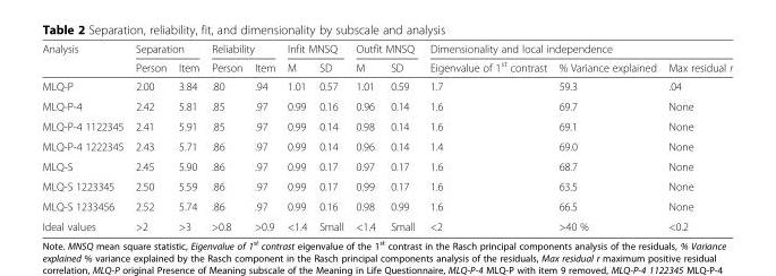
<table><thead><tr><td rowspan="2">Analysis</td><td colspan="2">Separation</td><td colspan="2">Reliability</td><td colspan="2">Infit MNSQ</td><td colspan="2">Outfit MNSQ</td><td colspan="3">Dimensionality and local independence</td></tr><tr><td>Person</td><td>Item</td><td>Person</td><td>Item</td><td>M</td><td>SD</td><td>M</td><td>SD</td><td>Eigenvalue of 1<sup>st</sup> contrast</td><td>% Variance explained</td><td>Max residual r</td></tr></thead><tbody><tr><td>MLQ-P</td><td>2.00</td><td>3.84</td><td>.80</td><td>.94</td><td>1.01</td><td>0.57</td><td>1.01</td><td>0.59</td><td>1.7</td><td>59.3</td><td>.04</td></tr><tr><td>MLQ-P-4</td><td>2.42</td><td>5.81</td><td>.85</td><td>.97</td><td>0.99</td><td>0.16</td><td>0.96</td><td>0.14</td><td>1.6</td><td>69.7</td><td>None</td></tr><tr><td>MLQ-P-4 1122345</td><td>2.41</td><td>5.91</td><td>.85</td><td>.97</td><td>0.99</td><td>0.14</td><td>0.98</td><td>0.14</td><td>1.6</td><td>69.1</td><td>None</td></tr><tr><td>MLQ-P-4 1222345</td><td>2.43</td><td>5.71</td><td>.86</td><td>.97</td><td>0.99</td><td>0.14</td><td>0.96</td><td>0.14</td><td>1.4</td><td>69.0</td><td>None</td></tr><tr><td>MLQ-S</td><td>2.45</td><td>5.90</td><td>.86</td><td>.97</td><td>0.99</td><td>0.17</td><td>0.97</td><td>0.17</td><td>1.6</td><td>68.7</td><td>None</td></tr><tr><td>MLQ-S 1223345</td><td>2.50</td><td>5.59</td><td>.86</td><td>.97</td><td>0.99</td><td>0.17</td><td>0.99</td><td>0.17</td><td>1.6</td><td>63.5</td><td>None</td></tr><tr><td>MLQ-S 1233456</td><td>2.52</td><td>5.74</td><td>.86</td><td>.97</td><td>0.99</td><td>0.16</td><td>0.98</td><td>0.99</td><td>1.6</td><td>66.5</td><td>None</td></tr><tr><td>Ideal values</td><td>&gt;2</td><td>&gt;3</td><td>&gt;0.8</td><td>&gt;0.9</td><td>&lt;1.4</td><td>Small</td><td>&lt;1.4</td><td>Small</td><td>&lt;2</td><td>&gt;40 %</td><td>&lt;0.2</td></tr></tbody></table>